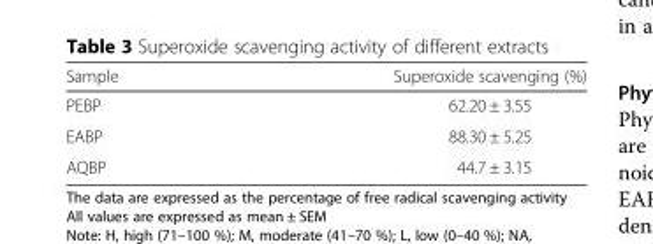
<table><thead><tr><td>Sample</td><td>Superoxide scavenging (%)</td></tr></thead><tbody><tr><td>PEBP</td><td>62.20 ± 3.55</td></tr><tr><td>EABP</td><td>88.30 ± 5.25</td></tr><tr><td>AQBP</td><td>44.7 ± 3.15</td></tr></tbody></table>